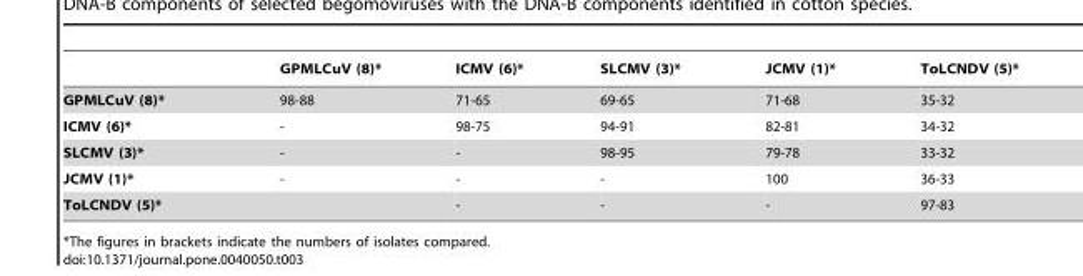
<table><thead><tr><td></td><td>GPMLCuV (8)*</td><td>ICMV (6)*</td><td>SLCMV (3)*</td><td>JCMV (1)*</td><td>ToLCNDV (5)*</td></tr></thead><tbody><tr><td>GPMLCuV (8)*</td><td>98-88</td><td>71-65</td><td>69-65</td><td>71-68</td><td>35-32</td></tr><tr><td>ICMV (6)*</td><td>-</td><td>98-75</td><td>94-91</td><td>82-81</td><td>34-32</td></tr><tr><td>SLCMV (3)*</td><td>-</td><td>-</td><td>98-95</td><td>79-78</td><td>33-32</td></tr><tr><td>JCMV (1)*</td><td>-</td><td>-</td><td>-</td><td>100</td><td>36-33</td></tr><tr><td>ToLCNDV (5)*</td><td></td><td>-</td><td>-</td><td>-</td><td>97-83</td></tr></tbody></table>